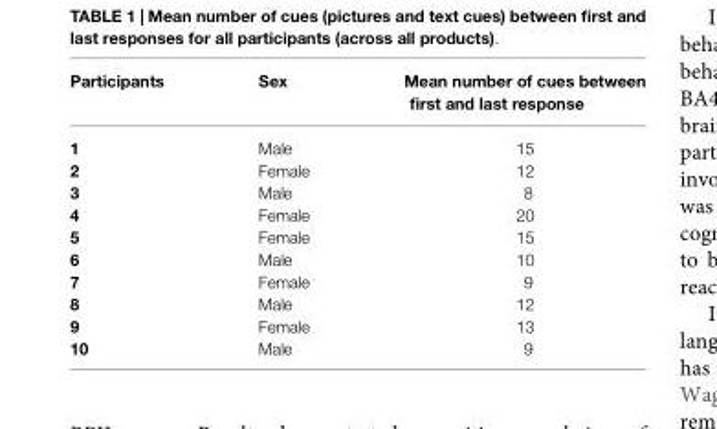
<table><thead><tr><td>Participants</td><td>Sex</td><td>Mean number of cues between first and last response</td></tr></thead><tbody><tr><td>1</td><td>Male</td><td>15</td></tr><tr><td>2</td><td>Female</td><td>12</td></tr><tr><td>3</td><td>Male</td><td>8</td></tr><tr><td>4</td><td>Female</td><td>20</td></tr><tr><td>5</td><td>Female</td><td>15</td></tr><tr><td>6</td><td>Male</td><td>10</td></tr><tr><td>7</td><td>Female</td><td>9</td></tr><tr><td>8</td><td>Male</td><td>12</td></tr><tr><td>9</td><td>Female</td><td>13</td></tr><tr><td>10</td><td>Male</td><td>9</td></tr></tbody></table>